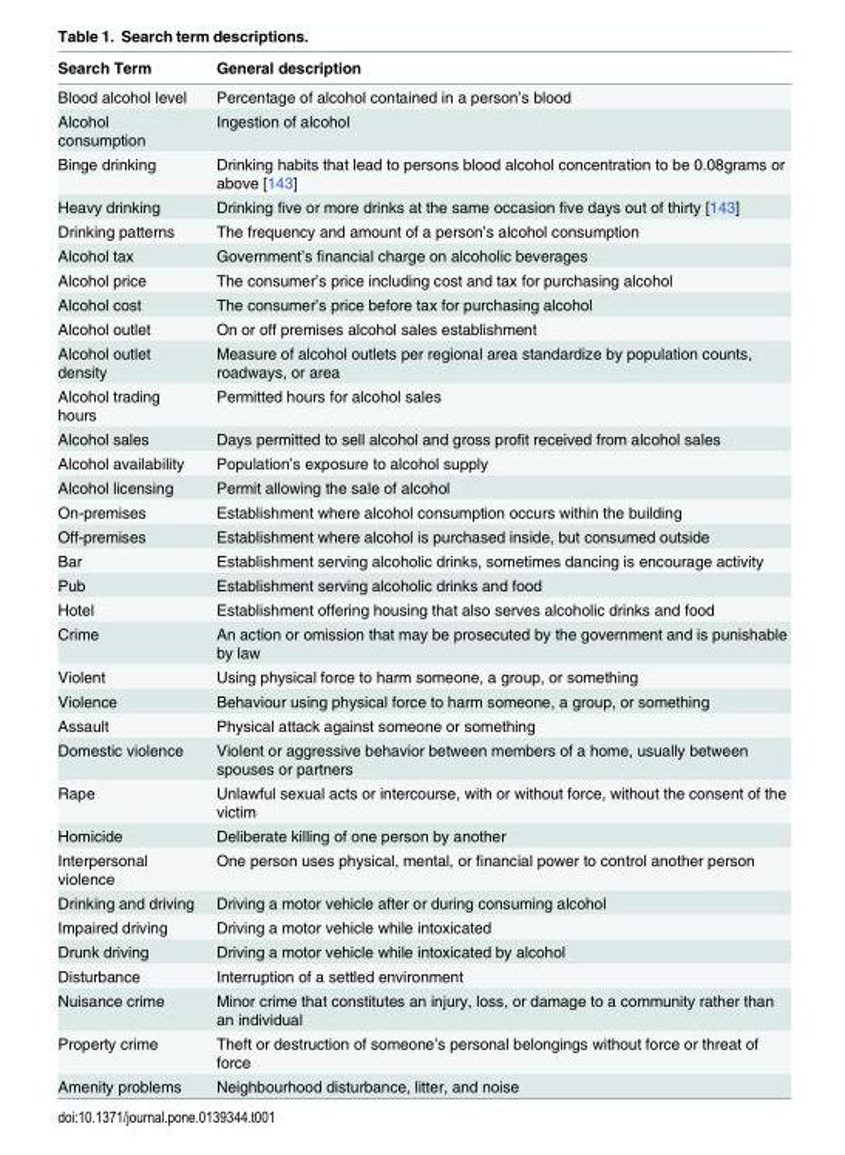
<table><thead><tr><td>Search Term</td><td>General description</td></tr></thead><tbody><tr><td>Blood alcohol level</td><td>Percentage of alcohol contained in a person’s blood</td></tr><tr><td>Alcohol consumption</td><td>Ingestion of alcohol</td></tr><tr><td>Binge drinking</td><td>Drinking habits that lead to persons blood alcohol concentration to be 0.08grams or above [143]</td></tr><tr><td>Heavy drinking</td><td>Drinking five or more drinks at the same occasion five days out of thirty [143]</td></tr><tr><td>Drinking patterns</td><td>The frequency and amount of a person’s alcohol consumption</td></tr><tr><td>Alcohol tax</td><td>Government’s financial charge on alcoholic beverages</td></tr><tr><td>Alcohol price</td><td>The consumer’s price including cost and tax for purchasing alcohol</td></tr><tr><td>Alcohol cost</td><td>The consumer’s price before tax for purchasing alcohol</td></tr><tr><td>Alcohol outlet</td><td>On or off premises alcohol sales establishment</td></tr><tr><td>Alcohol outlet density</td><td>Measure of alcohol outlets per regional area standardize by population counts, roadways, or area</td></tr><tr><td>Alcohol trading hours</td><td>Permitted hours for alcohol sales</td></tr><tr><td>Alcohol sales</td><td>Days permitted to sell alcohol and gross profit received from alcohol sales</td></tr><tr><td>Alcohol availability</td><td>Population’s exposure to alcohol supply</td></tr><tr><td>Alcohol licensing</td><td>Permit allowing the sale of alcohol</td></tr><tr><td>On-premises</td><td>Establishment where alcohol consumption occurs within the building</td></tr><tr><td>Off-premises</td><td>Establishment where alcohol is purchased inside, but consumed outside</td></tr><tr><td>Bar</td><td>Establishment serving alcoholic drinks, sometimes dancing is encourage activity</td></tr><tr><td>Pub</td><td>Establishment serving alcoholic drinks and food</td></tr><tr><td>Hotel</td><td>Establishment offering housing that also serves alcoholic drinks and food</td></tr><tr><td>Crime</td><td>An action or omission that may be prosecuted by the government and is punishable by law</td></tr><tr><td>Violent</td><td>Using physical force to harm someone, a group, or something</td></tr><tr><td>Violence</td><td>Behaviour using physical force to harm someone, a group, or something</td></tr><tr><td>Assault</td><td>Physical attack against someone or something</td></tr><tr><td>Domestic violence</td><td>Violent or aggressive behavior between members of a home, usually between spouses or partners</td></tr><tr><td>Rape</td><td>Unlawful sexual acts or intercourse, with or without force, without the consent of the victim</td></tr><tr><td>Homicide</td><td>Deliberate killing of one person by another</td></tr><tr><td>Interpersonal violence</td><td>One person uses physical, mental, or financial power to control another person</td></tr><tr><td>Drinking and driving</td><td>Driving a motor vehicle after or during consuming alcohol</td></tr><tr><td>Impaired driving</td><td>Driving a motor vehicle while intoxicated</td></tr><tr><td>Drunk driving</td><td>Driving a motor vehicle while intoxicated by alcohol</td></tr><tr><td>Disturbance</td><td>Interruption of a settled environment</td></tr><tr><td>Nuisance crime</td><td>Minor crime that constitutes an injury, loss, or damage to a community rather than an individual</td></tr><tr><td>Property crime</td><td>Theft or destruction of someone’s personal belongings without force or threat of force</td></tr><tr><td>Amenity problems</td><td>Neighbourhood disturbance, litter, and noise</td></tr></tbody></table>